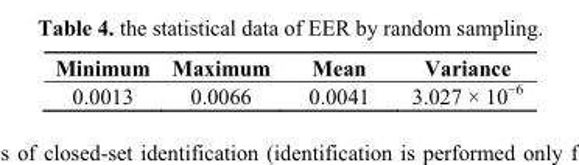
<table><thead><tr><td>Minimum</td><td>Maximum</td><td>Mean</td><td>Variance</td></tr></thead><tbody><tr><td>0.0013</td><td>0.0066</td><td>0.0041</td><td>3.027 × 10<sup>−6</sup></td></tr></tbody></table>